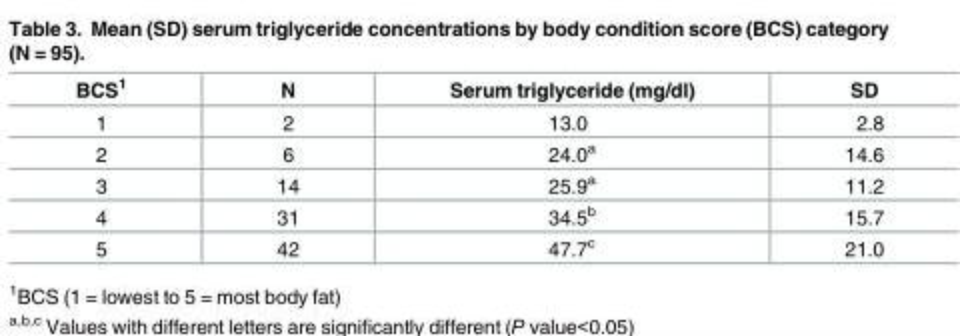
<table><thead><tr><td>BCS<sup>1</sup></td><td>N</td><td>Serum triglyceride (mg/dl)</td><td>SD</td></tr></thead><tbody><tr><td>1</td><td>2</td><td>13.0</td><td>2.8</td></tr><tr><td>2</td><td>6</td><td>24.0<sup>a</sup></td><td>14.6</td></tr><tr><td>3</td><td>14</td><td>25.9<sup>a</sup></td><td>11.2</td></tr><tr><td>4</td><td>31</td><td>34.5<sup>b</sup></td><td>15.7</td></tr><tr><td>5</td><td>42</td><td>47.7<sup>c</sup></td><td>21.0</td></tr></tbody></table>